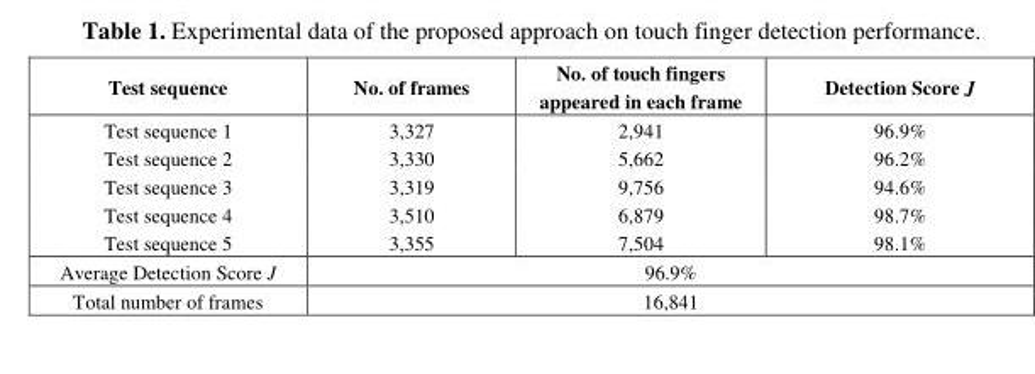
<table><thead><tr><td>Test sequence</td><td>No. of frames</td><td>No. of touch fingers appeared in each frame</td><td>Detection Score J</td></tr></thead><tbody><tr><td>Test sequence 1</td><td>3,327</td><td>2,941</td><td>96.9%</td></tr><tr><td>Test sequence 2</td><td>3,330</td><td>5,662</td><td>96.2%</td></tr><tr><td>Test sequence 3</td><td>3,319</td><td>9,756</td><td>94.6%</td></tr><tr><td>Test sequence 4</td><td>3,510</td><td>6,879</td><td>98.7%</td></tr><tr><td>Test sequence 5</td><td>3,355</td><td>7,504</td><td>98.1%</td></tr><tr><td>Average Detection Score J</td><td colspan="3">96.9%</td></tr><tr><td>Total number of frames</td><td colspan="3">16,841</td></tr></tbody></table>